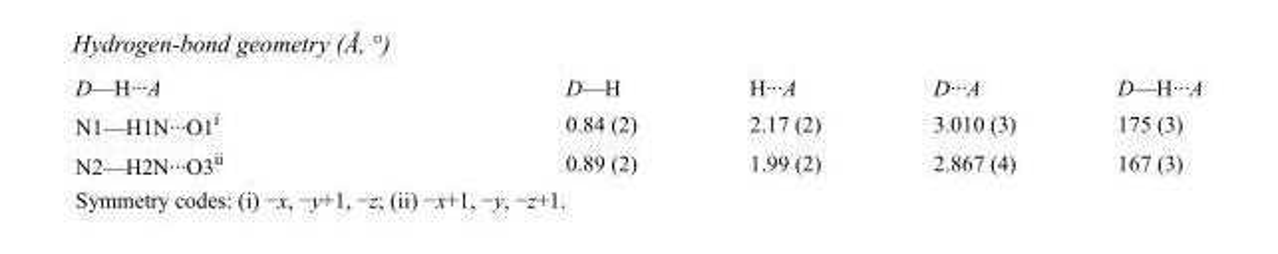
<table><tbody><tr><td>D—H···A</td><td>D—H</td><td>H···A</td><td>D···A</td><td>D—H···A</td></tr><tr><td>N1—H1N···O1<sup>i</sup></td><td>0.84 (2)</td><td>2.17 (2)</td><td>3.010 (3)</td><td>175 (3)</td></tr><tr><td>N2—H2N···O3<sup>ii</sup></td><td>0.89 (2)</td><td>1.99 (2)</td><td>2.867 (4)</td><td>167 (3)</td></tr></tbody></table>